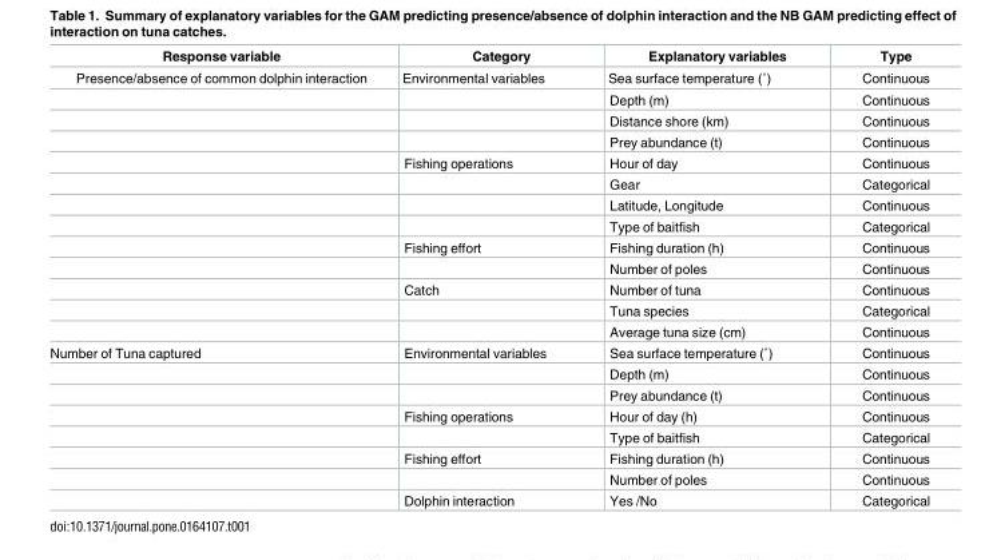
<table><thead><tr><td>Response variable</td><td>Category</td><td>Explanatory variables</td><td>Type</td></tr></thead><tbody><tr><td rowspan="13">Presence/absence of common dolphin interaction</td><td>Environmental variables</td><td>Sea surface temperature (˚)</td><td>Continuous</td></tr><tr><td></td><td>Depth (m)</td><td>Continuous</td></tr><tr><td></td><td>Distance shore (km)</td><td>Continuous</td></tr><tr><td></td><td>Prey abundance (t)</td><td>Continuous</td></tr><tr><td>Fishing operations</td><td>Hour of day</td><td>Continuous</td></tr><tr><td></td><td>Gear</td><td>Categorical</td></tr><tr><td></td><td>Latitude, Longitude</td><td>Continuous</td></tr><tr><td></td><td>Type of baitfish</td><td>Categorical</td></tr><tr><td>Fishing effort</td><td>Fishing duration (h)</td><td>Continuous</td></tr><tr><td></td><td>Number of poles</td><td>Continuous</td></tr><tr><td>Catch</td><td>Number of tuna</td><td>Continuous</td></tr><tr><td></td><td>Tuna species</td><td>Categorical</td></tr><tr><td></td><td>Average tuna size (cm)</td><td>Continuous</td></tr><tr><td rowspan="8">Number of Tuna captured</td><td>Environmental variables</td><td>Sea surface temperature (˚)</td><td>Continuous</td></tr><tr><td></td><td>Depth (m)</td><td>Continuous</td></tr><tr><td></td><td>Prey abundance (t)</td><td>Continuous</td></tr><tr><td>Fishing operations</td><td>Hour of day (h)</td><td>Continuous</td></tr><tr><td></td><td>Type of baitfish</td><td>Categorical</td></tr><tr><td>Fishing effort</td><td>Fishing duration (h)</td><td>Continuous</td></tr><tr><td></td><td>Number of poles</td><td>Continuous</td></tr><tr><td>Dolphin interaction</td><td>Yes /No</td><td>Categorical</td></tr></tbody></table>